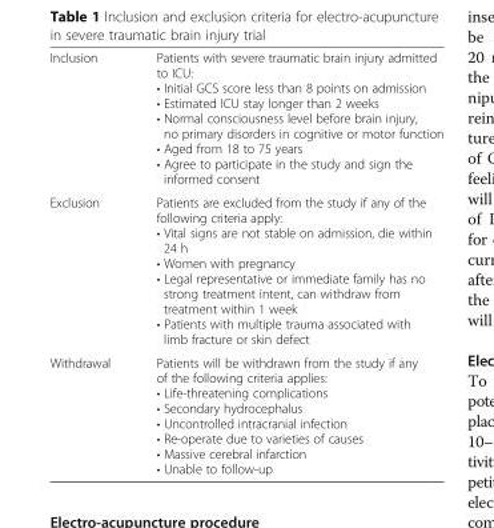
<table><tbody><tr><td>Inclusion</td><td>Patients with severe traumatic brain injury admitted to ICU: • Initial GCS score less than 8 points on admission • Estimated ICU stay longer than 2 weeks • Normal consciousness level before brain injury, no primary disorders in cognitive or motor function • Aged from 18 to 75 years • Agree to participate in the study and sign the informed consent</td></tr><tr><td>Exclusion</td><td>Patients are excluded from the study if any of the following criteria apply: • Vital signs are not stable on admission, die within 24 h • Women with pregnancy • Legal representative or immediate family has no strong treatment intent, can withdraw from treatment within 1 week • Patients with multiple trauma associated with limb fracture or skin defect</td></tr><tr><td>Withdrawal</td><td>Patients will be withdrawn from the study if any of the following criteria applies: • Life-threatening complications • Secondary hydrocephalus • Uncontrolled intracranial infection • Re-operate due to varieties of causes • Massive cerebral infarction • Unable to follow-up</td></tr></tbody></table>